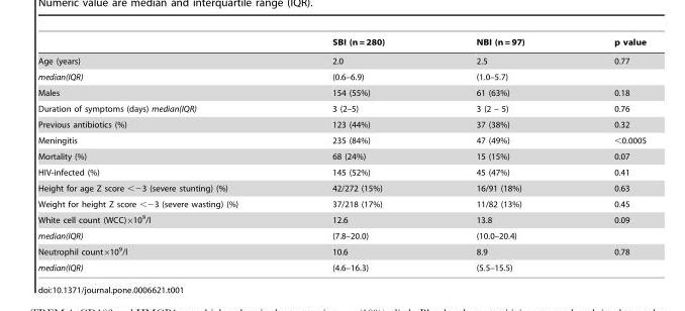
<table><thead><tr><td></td><td>SBI (n = 280)</td><td>NBI (n = 97)</td><td>p value</td></tr></thead><tbody><tr><td>Age (years)</td><td>2.0</td><td>2.5</td><td>0.77</td></tr><tr><td>median(IQR)</td><td>(0.6–6.9)</td><td>(1.0–5.7)</td><td></td></tr><tr><td>Males</td><td>154 (55%)</td><td>61 (63%)</td><td>0.18</td></tr><tr><td>Duration of symptoms (days) median(IQR)</td><td>3 (2–5)</td><td>3 (2 – 5)</td><td>0.76</td></tr><tr><td>Previous antibiotics (%)</td><td>123 (44%)</td><td>37 (38%)</td><td>0.32</td></tr><tr><td>Meningitis</td><td>235 (84%)</td><td>47 (49%)</td><td>&lt;0.0005</td></tr><tr><td>Mortality (%)</td><td>68 (24%)</td><td>15 (15%)</td><td>0.07</td></tr><tr><td>HIV-infected (%)</td><td>145 (52%)</td><td>45 (47%)</td><td>0.41</td></tr><tr><td>Height for age Z score &lt;−3 (severe stunting) (%)</td><td>42/272 (15%)</td><td>16/91 (18%)</td><td>0.63</td></tr><tr><td>Weight for height Z score &lt;−3 (severe wasting) (%)</td><td>37/218 (17%)</td><td>11/82 (13%)</td><td>0.45</td></tr><tr><td>White cell count (WCC)×10<sup>9</sup>/l</td><td>12.6</td><td>13.8</td><td>0.09</td></tr><tr><td>median(IQR)</td><td>(7.8–20.0)</td><td>(10.0–20.4)</td><td></td></tr><tr><td>Neutrophil count×10<sup>9</sup>/l</td><td>10.6</td><td>8.9</td><td>0.78</td></tr><tr><td>median(IQR)</td><td>(4.6–16.3)</td><td>(5.5–15.5)</td><td></td></tr></tbody></table>